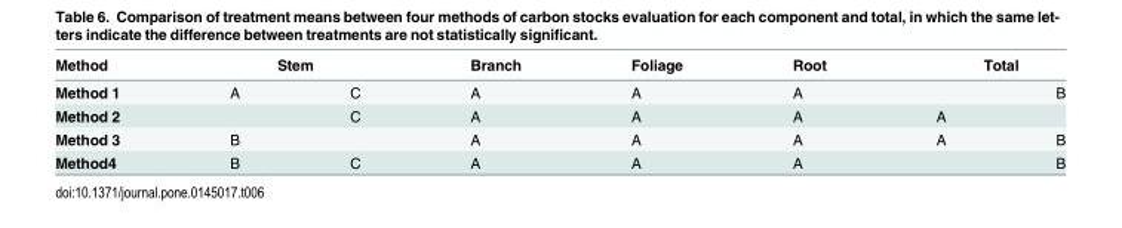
<table><thead><tr><td rowspan="2">Method Method 1</td><td colspan="2">Stem</td><td rowspan="2">Branch A</td><td rowspan="2">Foliage A</td><td rowspan="2">Root A</td><td colspan="2">Total</td></tr><tr><td>A</td><td>C</td><td></td><td>B</td></tr></thead><tbody><tr><td>Method 2</td><td></td><td>C</td><td>A</td><td>A</td><td>A</td><td>A</td><td></td></tr><tr><td>Method 3</td><td>B</td><td></td><td>A</td><td>A</td><td>A</td><td>A</td><td>B</td></tr><tr><td>Method4</td><td>B</td><td>C</td><td>A</td><td>A</td><td>A</td><td></td><td>B</td></tr></tbody></table>